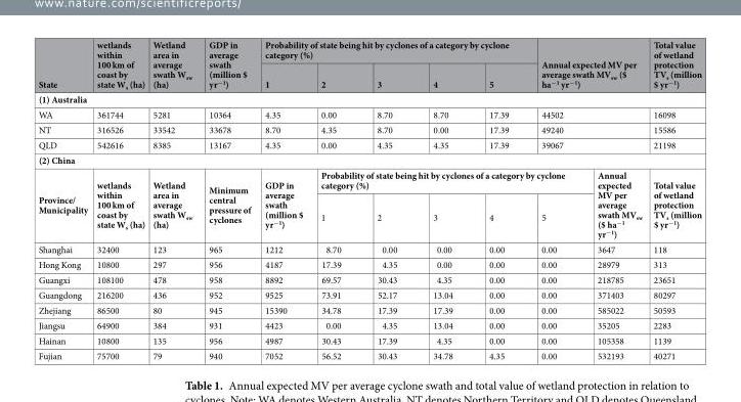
<table><thead><tr><td rowspan="2">State</td><td rowspan="2">wetlands within 100 km of coast by state W<sub>s</sub> (ha)</td><td rowspan="2">Wetland area in average swath W<sub>sw</sub> (ha)</td><td rowspan="2">GDP in average swath (million $ yr<sup>−1</sup>)</td><td colspan="5">Probability of state being hit by cyclones of a category by cyclone category (%)</td><td rowspan="2" colspan="2">Annual expected MV per average swath MV<sub>sw</sub> ($ ha<sup>−1</sup> yr<sup>−1</sup>)</td><td rowspan="2">Total value of wetland protection TV<sub>s</sub> (million $ yr<sup>−1</sup>)</td></tr><tr><td>1</td><td>2</td><td>3</td><td>4</td><td>5</td></tr></thead><tbody><tr><td colspan="12">(1) Australia</td></tr><tr><td>WA</td><td>361744</td><td>5281</td><td>10364</td><td>4.35</td><td>0.00</td><td>8.70</td><td>8.70</td><td>17.39</td><td colspan="2">44502</td><td>16098</td></tr><tr><td>NT</td><td>316526</td><td>33542</td><td>33678</td><td>8.70</td><td>4.35</td><td>8.70</td><td>0.00</td><td>17.39</td><td colspan="2">49240</td><td>15586</td></tr><tr><td>QLD</td><td>542616</td><td>8385</td><td>13167</td><td>4.35</td><td>0.00</td><td>4.35</td><td>4.35</td><td>17.39</td><td colspan="2">39067</td><td>21198</td></tr><tr><td colspan="12">(2) China</td></tr><tr><td rowspan="2">Province/ Municipality</td><td rowspan="2">wetlands within 100 km of coast by state W<sub>s</sub> (ha)</td><td rowspan="2">Wetland area in average swath W<sub>sw</sub> (ha)</td><td rowspan="2">Minimum central pressure of cyclones</td><td rowspan="2">GDP in average swath (million $ yr<sup>−1</sup>)</td><td colspan="5">Probability of state being hit by cyclones of a category by cyclone category (%)</td><td rowspan="2">Annual expected MV per average swath MV<sub>sw</sub> ($ ha<sup>−1</sup> yr<sup>−1</sup>)</td><td rowspan="2">Total value of wetland protection TV<sub>s</sub> (million $ yr<sup>−1</sup>)</td></tr><tr><td>1</td><td>2</td><td>3</td><td>4</td><td>5</td></tr><tr><td>Shanghai</td><td>32400</td><td>123</td><td>965</td><td>1212</td><td>8.70</td><td>0.00</td><td>0.00</td><td>0.00</td><td>0.00</td><td>3647</td><td>118</td></tr><tr><td>Hong Kong</td><td>10800</td><td>297</td><td>956</td><td>4187</td><td>17.39</td><td>4.35</td><td>0.00</td><td>0.00</td><td>0.00</td><td>28979</td><td>313</td></tr><tr><td>Guangxi</td><td>108100</td><td>478</td><td>958</td><td>8892</td><td>69.57</td><td>30.43</td><td>4.35</td><td>0.00</td><td>0.00</td><td>218785</td><td>23651</td></tr><tr><td>Guangdong</td><td>216200</td><td>436</td><td>952</td><td>9525</td><td>73.91</td><td>52.17</td><td>13.04</td><td>0.00</td><td>0.00</td><td>371403</td><td>80297</td></tr><tr><td>Zhejiang</td><td>86500</td><td>80</td><td>945</td><td>15390</td><td>34.78</td><td>17.39</td><td>17.39</td><td>0.00</td><td>0.00</td><td>585022</td><td>50593</td></tr><tr><td>Jiangsu</td><td>64900</td><td>384</td><td>931</td><td>4423</td><td>0.00</td><td>4.35</td><td>13.04</td><td>0.00</td><td>0.00</td><td>35205</td><td>2283</td></tr><tr><td>Hainan</td><td>10800</td><td>135</td><td>956</td><td>4987</td><td>30.43</td><td>17.39</td><td>4.35</td><td>0.00</td><td>0.00</td><td>105358</td><td>1139</td></tr><tr><td>Fujian</td><td>75700</td><td>79</td><td>940</td><td>7052</td><td>56.52</td><td>30.43</td><td>34.78</td><td>4.35</td><td>0.00</td><td>532193</td><td>40271</td></tr></tbody></table>